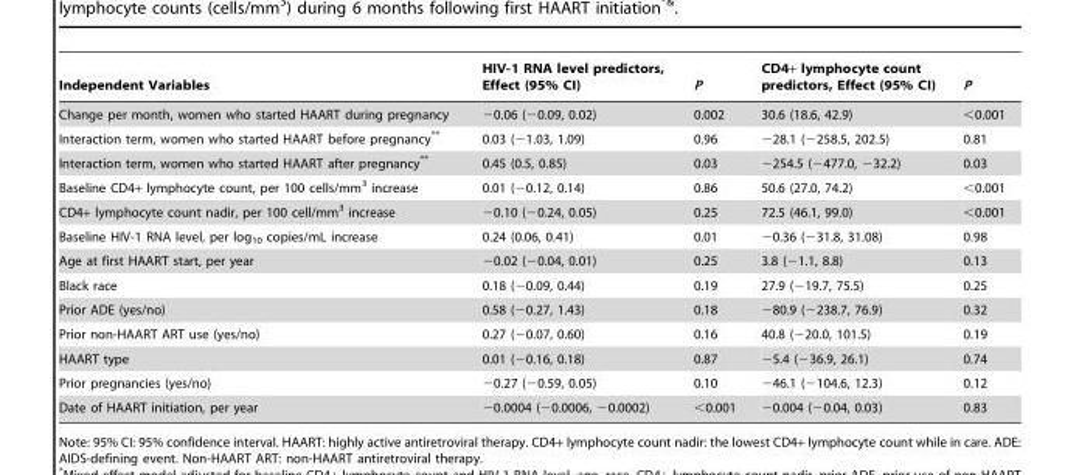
<table><thead><tr><td>Independent Variables</td><td>HIV-1 RNA level predictors, Effect (95% CI)</td><td>P</td><td>CD4+ lymphocyte count predictors, Effect (95% CI)</td><td>P</td></tr></thead><tbody><tr><td>Change per month, women who started HAART during pregnancy</td><td>−0.06 (−0.09, 0.02)</td><td>0.002</td><td>30.6 (18.6, 42.9)</td><td>&lt;0.001</td></tr><tr><td>Interaction term, women who started HAART before pregnancy**</td><td>0.03 (−1.03, 1.09)</td><td>0.96</td><td>−28.1 (−258.5, 202.5)</td><td>0.81</td></tr><tr><td>Interaction term, women who started HAART after pregnancy**</td><td>0.45 (0.5, 0.85)</td><td>0.03</td><td>−254.5 (−477.0, −32.2)</td><td>0.03</td></tr><tr><td>Baseline CD4+ lymphocyte count, per 100 cells/mm<sup>3</sup> increase</td><td>0.01 (−0.12, 0.14)</td><td>0.86</td><td>50.6 (27.0, 74.2)</td><td>&lt;0.001</td></tr><tr><td>CD4+ lymphocyte count nadir, per 100 cell/mm<sup>3</sup> increase</td><td>−0.10 (−0.24, 0.05)</td><td>0.25</td><td>72.5 (46.1, 99.0)</td><td>&lt;0.001</td></tr><tr><td>Baseline HIV-1 RNA level, per log<sub>10</sub> copies/mL increase</td><td>0.24 (0.06, 0.41)</td><td>0.01</td><td>−0.36 (−31.8, 31.08)</td><td>0.98</td></tr><tr><td>Age at first HAART start, per year</td><td>−0.02 (−0.04, 0.01)</td><td>0.25</td><td>3.8 (−1.1, 8.8)</td><td>0.13</td></tr><tr><td>Black race</td><td>0.18 (−0.09, 0.44)</td><td>0.19</td><td>27.9 (−19.7, 75.5)</td><td>0.25</td></tr><tr><td>Prior ADE (yes/no)</td><td>0.58 (−0.27, 1.43)</td><td>0.18</td><td>−80.9 (−238.7, 76.9)</td><td>0.32</td></tr><tr><td>Prior non-HAART ART use (yes/no)</td><td>0.27 (−0.07, 0.60)</td><td>0.16</td><td>40.8 (−20.0, 101.5)</td><td>0.19</td></tr><tr><td>HAART type</td><td>0.01 (−0.16, 0.18)</td><td>0.87</td><td>−5.4 (−36.9, 26.1)</td><td>0.74</td></tr><tr><td>Prior pregnancies (yes/no)</td><td>−0.27 (−0.59, 0.05)</td><td>0.10</td><td>−46.1 (−104.6, 12.3)</td><td>0.12</td></tr><tr><td>Date of HAART initiation, per year</td><td>−0.0004 (−0.0006, −0.0002)</td><td>&lt;0.001</td><td>−0.004 (−0.04, 0.03)</td><td>0.83</td></tr></tbody></table>